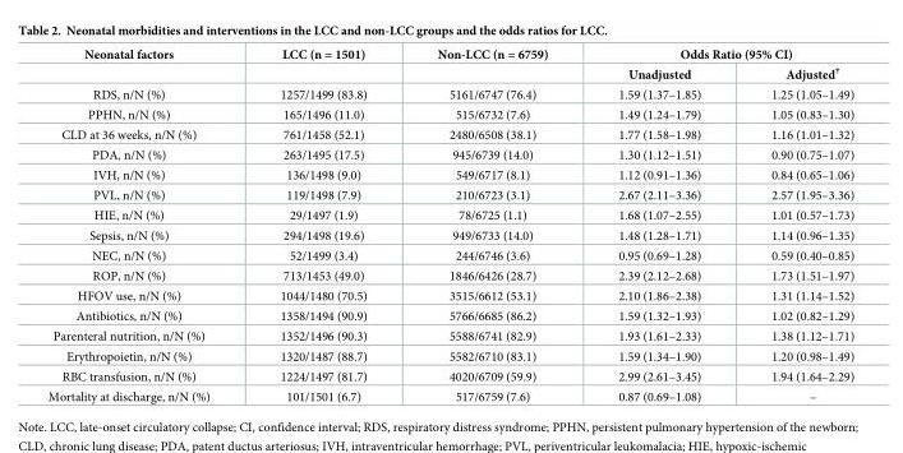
<table><thead><tr><td rowspan="2">Neonatal factors</td><td rowspan="2">LCC (n = 1501)</td><td rowspan="2">Non-LCC (n = 6759)</td><td colspan="2">Odds Ratio (95% CI)</td></tr><tr><td>Unadjusted</td><td>Adjusted<sup>†</sup></td></tr></thead><tbody><tr><td>RDS, n/N (%)</td><td>1257/1499 (83.8)</td><td>5161/6747 (76.4)</td><td>1.59 (1.37–1.85)</td><td>1.25 (1.05–1.49)</td></tr><tr><td>PPHN, n/N (%)</td><td>165/1496 (11.0)</td><td>515/6732 (7.6)</td><td>1.49 (1.24–1.79)</td><td>1.05 (0.83–1.30)</td></tr><tr><td>CLD at 36 weeks, n/N (%)</td><td>761/1458 (52.1)</td><td>2480/6508 (38.1)</td><td>1.77 (1.58–1.98)</td><td>1.16 (1.01–1.32)</td></tr><tr><td>PDA, n/N (%)</td><td>263/1495 (17.5)</td><td>945/6739 (14.0)</td><td>1.30 (1.12–1.51)</td><td>0.90 (0.75–1.07)</td></tr><tr><td>IVH, n/N (%)</td><td>136/1498 (9.0)</td><td>549/6717 (8.1)</td><td>1.12 (0.91–1.36)</td><td>0.84 (0.65–1.06)</td></tr><tr><td>PVL, n/N (%)</td><td>119/1498 (7.9)</td><td>210/6723 (3.1)</td><td>2.67 (2.11–3.36)</td><td>2.57 (1.95–3.36)</td></tr><tr><td>HIE, n/N (%)</td><td>29/1497 (1.9)</td><td>78/6725 (1.1)</td><td>1.68 (1.07–2.55)</td><td>1.01 (0.57–1.73)</td></tr><tr><td>Sepsis, n/N (%)</td><td>294/1498 (19.6)</td><td>949/6733 (14.0)</td><td>1.48 (1.28–1.71)</td><td>1.14 (0.96–1.35)</td></tr><tr><td>NEC, n/N (%)</td><td>52/1499 (3.4)</td><td>244/6746 (3.6)</td><td>0.95 (0.69–1.28)</td><td>0.59 (0.40–0.85)</td></tr><tr><td>ROP, n/N (%)</td><td>713/1453 (49.0)</td><td>1846/6426 (28.7)</td><td>2.39 (2.12–2.68)</td><td>1.73 (1.51–1.97)</td></tr><tr><td>HFOV use, n/N (%)</td><td>1044/1480 (70.5)</td><td>3515/6612 (53.1)</td><td>2.10 (1.86–2.38)</td><td>1.31 (1.14–1.52)</td></tr><tr><td>Antibiotics, n/N (%)</td><td>1358/1494 (90.9)</td><td>5766/6685 (86.2)</td><td>1.59 (1.32–1.93)</td><td>1.02 (0.82–1.29)</td></tr><tr><td>Parenteral nutrition, n/N (%)</td><td>1352/1496 (90.3)</td><td>5588/6741 (82.9)</td><td>1.93 (1.61–2.33)</td><td>1.38 (1.12–1.71)</td></tr><tr><td>Erythropoietin, n/N (%)</td><td>1320/1487 (88.7)</td><td>5582/6710 (83.1)</td><td>1.59 (1.34–1.90)</td><td>1.20 (0.98–1.49)</td></tr><tr><td>RBC transfusion, n/N (%)</td><td>1224/1497 (81.7)</td><td>4020/6709 (59.9)</td><td>2.99 (2.61–3.45)</td><td>1.94 (1.64–2.29)</td></tr><tr><td>Mortality at discharge, n/N (%)</td><td>101/1501 (6.7)</td><td>517/6759 (7.6)</td><td>0.87 (0.69–1.08)</td><td>–</td></tr></tbody></table>